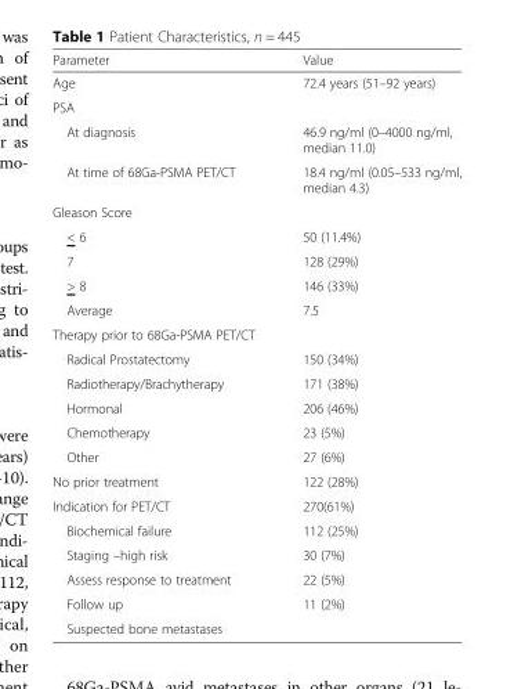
<table><thead><tr><td>Parameter</td><td>Value</td></tr></thead><tbody><tr><td>Age</td><td>72.4 years (51–92 years)</td></tr><tr><td colspan="2">PSA</td></tr><tr><td>At diagnosis</td><td>46.9 ng/ml (0–4000 ng/ml, median 11.0)</td></tr><tr><td>At time of 68Ga-PSMA PET/CT</td><td>18.4 ng/ml (0.05–533 ng/ml, median 4.3)</td></tr><tr><td colspan="2">Gleason Score</td></tr><tr><td>&lt; 6</td><td>50 (11.4%)</td></tr><tr><td>7</td><td>128 (29%)</td></tr><tr><td>&gt; 8</td><td>146 (33%)</td></tr><tr><td>Average</td><td>7.5</td></tr><tr><td colspan="2">Therapy prior to 68Ga-PSMA PET/CT</td></tr><tr><td>Radical Prostatectomy</td><td>150 (34%)</td></tr><tr><td>Radiotherapy/Brachytherapy</td><td>171 (38%)</td></tr><tr><td>Hormonal</td><td>206 (46%)</td></tr><tr><td>Chemotherapy</td><td>23 (5%)</td></tr><tr><td>Other</td><td>27 (6%)</td></tr><tr><td>No prior treatment</td><td>122 (28%)</td></tr><tr><td>Indication for PET/CT</td><td>270(61%)</td></tr><tr><td>Biochemical failure</td><td>112 (25%)</td></tr><tr><td>Staging –high risk</td><td>30 (7%)</td></tr><tr><td>Assess response to treatment</td><td>22 (5%)</td></tr><tr><td>Follow up</td><td>11 (2%)</td></tr><tr><td>Suspected bone metastases</td><td></td></tr></tbody></table>